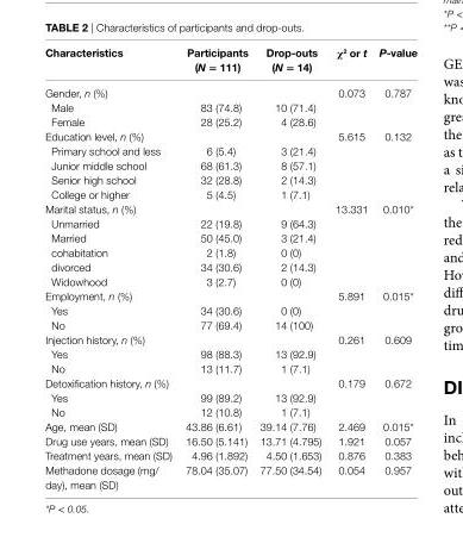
<table><thead><tr><td>Characteristics</td><td>Participants (N = 111)</td><td>Drop-outs (N = 14)</td><td>χ<sup>2</sup> or t</td><td>P-value</td></tr></thead><tbody><tr><td>Gender, n (%)</td><td></td><td></td><td>0.073</td><td>0.787</td></tr><tr><td>Male</td><td>83 (74.8)</td><td>10 (71.4)</td><td></td><td></td></tr><tr><td>Female</td><td>28 (25.2)</td><td>4 (28.6)</td><td></td><td></td></tr><tr><td>Education level, n (%)</td><td></td><td></td><td>5.615</td><td>0.132</td></tr><tr><td>Primary school and less</td><td>6 (5.4)</td><td>3 (21.4)</td><td></td><td></td></tr><tr><td>Junior middle school</td><td>68 (61.3)</td><td>8 (57.1)</td><td></td><td></td></tr><tr><td>Senior high school</td><td>32 (28.8)</td><td>2 (14.3)</td><td></td><td></td></tr><tr><td>College or higher</td><td>5 (4.5)</td><td>1 (7.1)</td><td></td><td></td></tr><tr><td>Marital status, n (%)</td><td></td><td></td><td>13.331</td><td>0.010*</td></tr><tr><td>Unmarried</td><td>22 (19.8)</td><td>9 (64.3)</td><td></td><td></td></tr><tr><td>Married</td><td>50 (45.0)</td><td>3 (21.4)</td><td></td><td></td></tr><tr><td>cohabitation</td><td>2 (1.8)</td><td>0 (0)</td><td></td><td></td></tr><tr><td>divorced</td><td>34 (30.6)</td><td>2 (14.3)</td><td></td><td></td></tr><tr><td>Widowhood</td><td>3 (2.7)</td><td>0 (0)</td><td></td><td></td></tr><tr><td>Employment, n (%)</td><td></td><td></td><td>5.891</td><td>0.015*</td></tr><tr><td>Yes</td><td>34 (30.6)</td><td>0 (0)</td><td></td><td></td></tr><tr><td>No</td><td>77 (69.4)</td><td>14 (100)</td><td></td><td></td></tr><tr><td>Injection history, n (%)</td><td></td><td></td><td>0.261</td><td>0.609</td></tr><tr><td>Yes</td><td>98 (88.3)</td><td>13 (92.9)</td><td></td><td></td></tr><tr><td>No</td><td>13 (11.7)</td><td>1 (7.1)</td><td></td><td></td></tr><tr><td>Detoxification history, n (%)</td><td></td><td></td><td>0.179</td><td>0.672</td></tr><tr><td>Yes</td><td>99 (89.2)</td><td>13 (92.9)</td><td></td><td></td></tr><tr><td>No</td><td>12 (10.8)</td><td>1 (7.1)</td><td></td><td></td></tr><tr><td>Age, mean (SD)</td><td>43.86 (6.61)</td><td>39.14 (7.76)</td><td>2.469</td><td>0.015*</td></tr><tr><td>Drug use years, mean (SD)</td><td>16.50 (5.141)</td><td>13.71 (4.795)</td><td>1.921</td><td>0.057</td></tr><tr><td>Treatment years, mean (SD)</td><td>4.96 (1.892)</td><td>4.50 (1.653)</td><td>0.876</td><td>0.383</td></tr><tr><td>Methadone dosage (mg/ day), mean (SD)</td><td>78.04 (35.07)</td><td>77.50 (34.54)</td><td>0.054</td><td>0.957</td></tr></tbody></table>